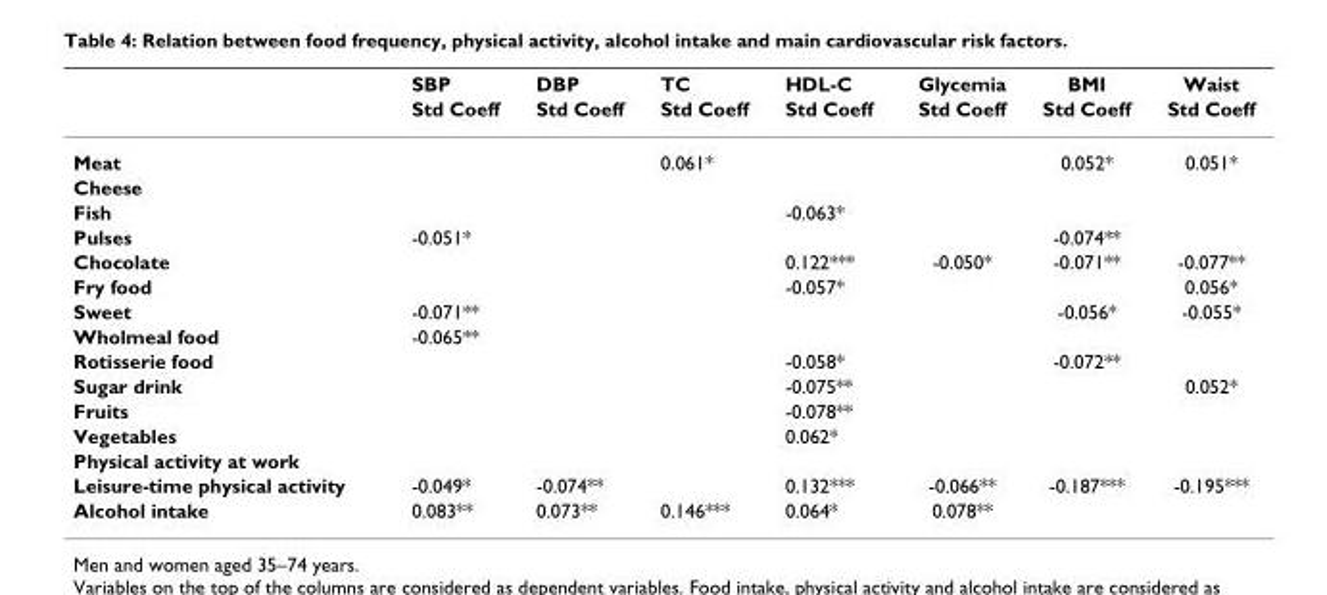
<table><thead><tr><td rowspan="2"></td><td rowspan="2">SBP Std Coeff</td><td rowspan="2">DBP Std Coeff</td><td rowspan="2">TC Std Coeff</td><td rowspan="2">HDL-C Std Coeff</td><td rowspan="2">Glycemia Std Coeff</td><td rowspan="2">BMI Std Coeff</td><td rowspan="2">Waist Std Coeff</td></tr><tr></tr></thead><tbody><tr><td>Meat</td><td></td><td></td><td>0.061*</td><td></td><td></td><td>0.052*</td><td>0.051*</td></tr><tr><td colspan="8">Cheese</td></tr><tr><td>Fish</td><td></td><td></td><td></td><td>-0.063*</td><td></td><td></td><td></td></tr><tr><td>Pulses</td><td>-0.051*</td><td></td><td></td><td></td><td></td><td>-0.074**</td><td></td></tr><tr><td>Chocolate</td><td></td><td></td><td></td><td>0.122***</td><td>-0.050*</td><td>-0.071**</td><td>-0.077**</td></tr><tr><td>Fry food</td><td></td><td></td><td></td><td>-0.057*</td><td></td><td></td><td>0.056*</td></tr><tr><td>Sweet</td><td>-0.071**</td><td></td><td></td><td></td><td></td><td>-0.056*</td><td>-0.055*</td></tr><tr><td>Wholmeal food</td><td>-0.065**</td><td></td><td></td><td></td><td></td><td></td><td></td></tr><tr><td>Rotisserie food</td><td></td><td></td><td></td><td>-0.058*</td><td></td><td>-0.072**</td><td></td></tr><tr><td>Sugar drink</td><td></td><td></td><td></td><td>-0.075**</td><td></td><td></td><td>0.052*</td></tr><tr><td>Fruits</td><td></td><td></td><td></td><td>-0.078**</td><td></td><td></td><td></td></tr><tr><td>Vegetables</td><td></td><td></td><td></td><td>0.062*</td><td></td><td></td><td></td></tr><tr><td colspan="8">Physical activity at work</td></tr><tr><td>Leisure-time physical activity</td><td>-0.049*</td><td>-0.074**</td><td></td><td>0.132***</td><td>-0.066**</td><td>-0.187***</td><td>-0.195***</td></tr><tr><td>Alcohol intake</td><td>0.083**</td><td>0.073**</td><td>0.146***</td><td>0.064*</td><td>0.078**</td><td></td><td></td></tr></tbody></table>